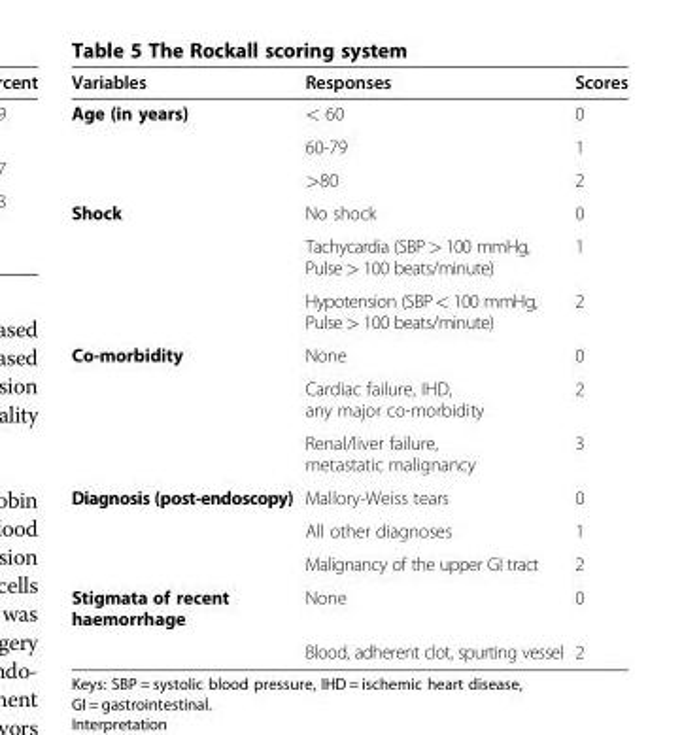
<table><thead><tr><td>Variables</td><td>Responses</td><td>Scores</td></tr></thead><tbody><tr><td rowspan="3">Age (in years)</td><td>&lt; 60</td><td>0</td></tr><tr><td>60-79</td><td>1</td></tr><tr><td>&gt;80</td><td>2</td></tr><tr><td rowspan="3">Shock</td><td>No shock</td><td>0</td></tr><tr><td>Tachycardia (SBP&gt; 100 mmHg, Pulse&gt; 100 beats/minute)</td><td>1</td></tr><tr><td>Hypotension (SBP&lt; 100 mmHg, Pulse&gt; 100 beats/minute)</td><td>2</td></tr><tr><td rowspan="3">Co-morbidity</td><td>None</td><td>0</td></tr><tr><td>Cardiac failure, IHD, any major co-morbidity</td><td>2</td></tr><tr><td>Renal/liver failure, metastatic malignancy</td><td>3</td></tr><tr><td rowspan="3">Diagnosis (post-endoscopy)</td><td>Mallory-Weiss tears</td><td>0</td></tr><tr><td>All other diagnoses</td><td>1</td></tr><tr><td>Malignancy of the upper GI tract</td><td>2</td></tr><tr><td rowspan="2">Stigmata of recent haemorrhage</td><td>None</td><td>0</td></tr><tr><td>Blood, adherent clot, spurting vessel</td><td>2</td></tr></tbody></table>